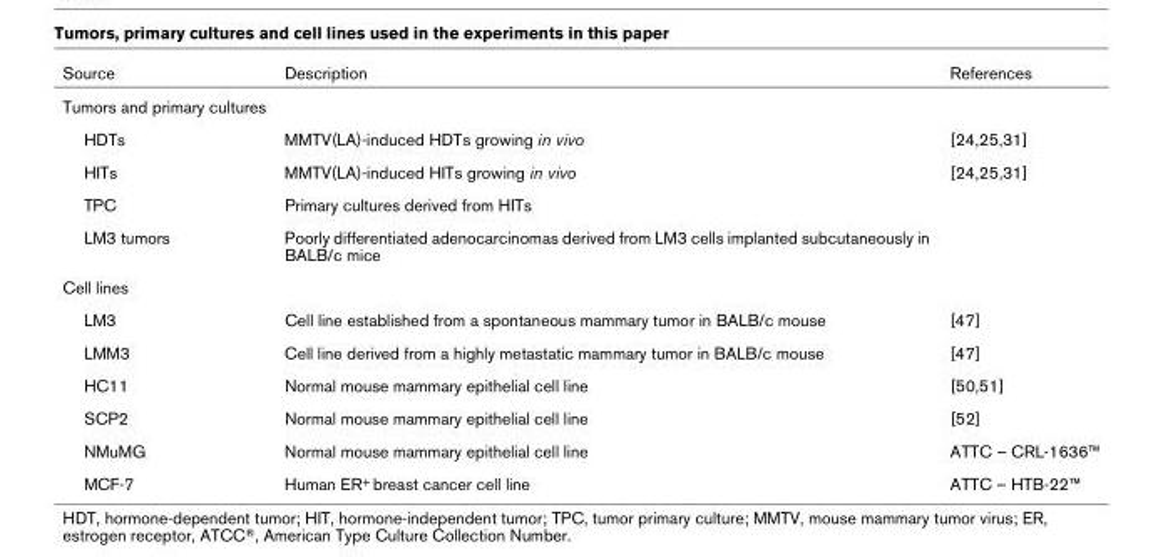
<table><thead><tr><td>Source</td><td>Description</td><td>References</td></tr></thead><tbody><tr><td colspan="3">Tumors and primary cultures</td></tr><tr><td>HDTs</td><td>MMTV(LA)-induced HDTs growing in vivo</td><td>[24,25,31]</td></tr><tr><td>HITs</td><td>MMTV(LA)-induced HITs growing in vivo</td><td>[24,25,31]</td></tr><tr><td>TPC</td><td>Primary cultures derived from HITs</td><td></td></tr><tr><td>LM3 tumors</td><td>Poorly differentiated adenocarcinomas derived from LM3 cells implanted subcutaneously in BALB/c mice</td><td></td></tr><tr><td colspan="3">Cell lines</td></tr><tr><td>LM3</td><td>Cell line established from a spontaneous mammary tumor in BALB/c mouse</td><td>[47]</td></tr><tr><td>LMM3</td><td>Cell line derived from a highly metastatic mammary tumor in BALB/c mouse</td><td>[47]</td></tr><tr><td>HC11</td><td>Normal mouse mammary epithelial cell line</td><td>[50,51]</td></tr><tr><td>SCP2</td><td>Normal mouse mammary epithelial cell line</td><td>[52]</td></tr><tr><td>NMuMG</td><td>Normal mouse mammary epithelial cell line</td><td>ATTC – CRL-1636™</td></tr><tr><td>MCF-7</td><td>Human ER<sup>+</sup> breast cancer cell line</td><td>ATTC – HTB-22™</td></tr></tbody></table>